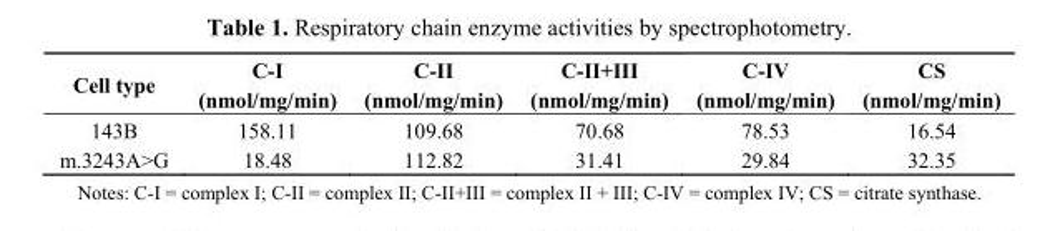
<table><thead><tr><td>Cell type</td><td>C-I (nmol/mg/min)</td><td>C-II (nmol/mg/min)</td><td>C-II+III (nmol/mg/min)</td><td>C-IV (nmol/mg/min)</td><td>CS (nmol/mg/min)</td></tr></thead><tbody><tr><td>143B</td><td>158.11</td><td>109.68</td><td>70.68</td><td>78.53</td><td>16.54</td></tr><tr><td>m.3243A&gt;G</td><td>18.48</td><td>112.82</td><td>31.41</td><td>29.84</td><td>32.35</td></tr></tbody></table>